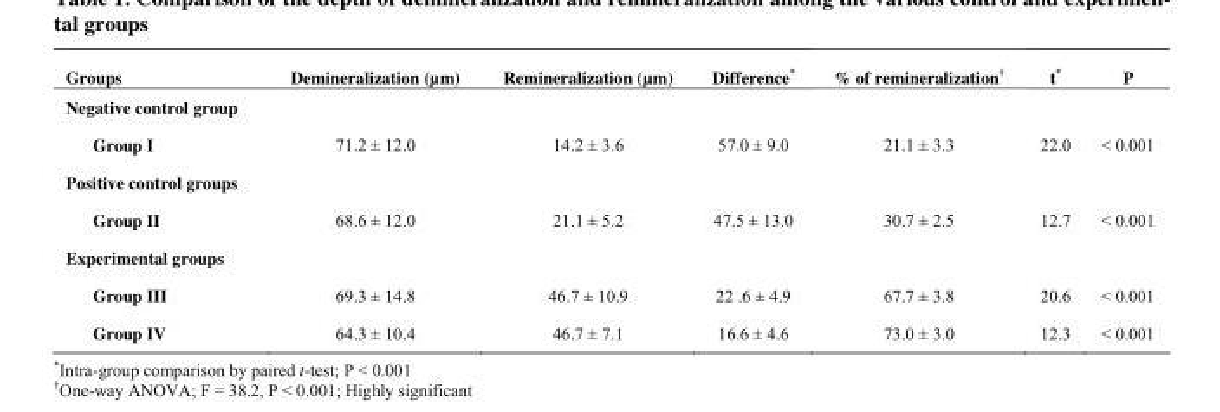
<table><tbody><tr><td>Groups</td><td>Demineralization (µm)</td><td>Remineralization (µm)</td><td>Difference*</td><td>% of remineralization<sup>†</sup></td><td>t*</td><td>P</td></tr><tr><td colspan="7">Negative control group</td></tr><tr><td>Group I</td><td>71.2 ± 12.0</td><td>14.2 ± 3.6</td><td>57.0 ± 9.0</td><td>21.1 ± 3.3</td><td>22.0</td><td>&lt; 0.001</td></tr><tr><td colspan="7">Positive control groups</td></tr><tr><td>Group II</td><td>68.6 ± 12.0</td><td>21.1 ± 5.2</td><td>47.5 ± 13.0</td><td>30.7 ± 2.5</td><td>12.7</td><td>&lt; 0.001</td></tr><tr><td colspan="7">Experimental groups</td></tr><tr><td>Group III</td><td>69.3 ± 14.8</td><td>46.7 ± 10.9</td><td>22 .6 ± 4.9</td><td>67.7 ± 3.8</td><td>20.6</td><td>&lt; 0.001</td></tr><tr><td>Group IV</td><td>64.3 ± 10.4</td><td>46.7 ± 7.1</td><td>16.6 ± 4.6</td><td>73.0 ± 3.0</td><td>12.3</td><td>&lt; 0.001</td></tr></tbody></table>